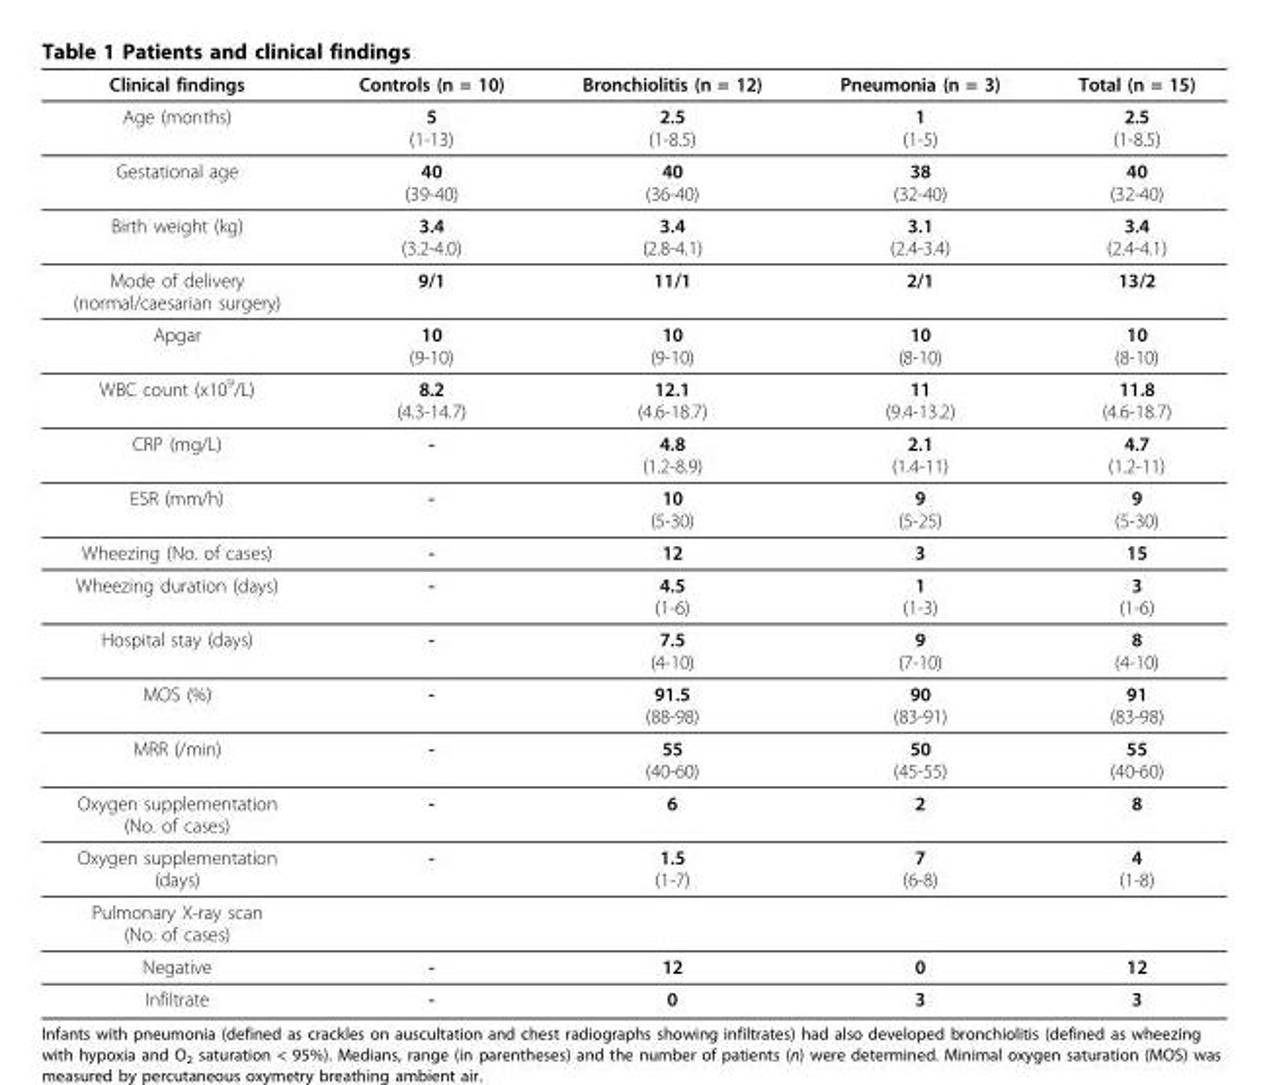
<table><thead><tr><td>Clinical findings</td><td>Controls (n = 10)</td><td>Bronchiolitis (n = 12)</td><td>Pneumonia (n = 3)</td><td>Total (n = 15)</td></tr></thead><tbody><tr><td>Age (months)</td><td>5 (1-13)</td><td>2.5 (1-8.5)</td><td>1 (1-5)</td><td>2.5 (1-8.5)</td></tr><tr><td>Gestational age</td><td>40 (39-40)</td><td>40 (36-40)</td><td>38 (32-40)</td><td>40 (32-40)</td></tr><tr><td>Birth weight (kg)</td><td>3.4 (3.2-4.0)</td><td>3.4 (2.8-4.1)</td><td>3.1 (2.4-3.4)</td><td>3.4 (2.4-4.1)</td></tr><tr><td>Mode of delivery (normal/caesarian surgery)</td><td>9/1</td><td>11/1</td><td>2/1</td><td>13/2</td></tr><tr><td>Apgar</td><td>10 (9-10)</td><td>10 (9-10)</td><td>10 (8-10)</td><td>10 (8-10)</td></tr><tr><td>WBC count (x10<sup>9</sup>/L)</td><td>8.2 (4.3-14.7)</td><td>12.1 (4.6-18.7)</td><td>11 (9.4-13.2)</td><td>11.8 (4.6-18.7)</td></tr><tr><td>CRP (mg/L)</td><td>-</td><td>4.8 (1.2-8.9)</td><td>2.1 (1.4-11)</td><td>4.7 (1.2-11)</td></tr><tr><td>ESR (mm/h)</td><td>-</td><td>10 (5-30)</td><td>9 (5-25)</td><td>9 (5-30)</td></tr><tr><td>Wheezing (No. of cases)</td><td>-</td><td>12</td><td>3</td><td>15</td></tr><tr><td>Wheezing duration (days)</td><td>-</td><td>4.5 (1-6)</td><td>1 (1-3)</td><td>3 (1-6)</td></tr><tr><td>Hospital stay (days)</td><td>-</td><td>7.5 (4-10)</td><td>9 (7-10)</td><td>8 (4-10)</td></tr><tr><td>MOS (%)</td><td>-</td><td>91.5 (88-98)</td><td>90 (83-91)</td><td>91 (83-98)</td></tr><tr><td>MRR (/min)</td><td>-</td><td>55 (40-60)</td><td>50 (45-55)</td><td>55 (40-60)</td></tr><tr><td>Oxygen supplementation (No. of cases)</td><td>-</td><td>6</td><td>2</td><td>8</td></tr><tr><td>Oxygen supplementation (days)</td><td>-</td><td>1.5 (1-7)</td><td>7 (6-8)</td><td>4 (1-8)</td></tr><tr><td colspan="5">Pulmonary X-ray scan (No. of cases)</td></tr><tr><td>Negative</td><td>-</td><td>12</td><td>0</td><td>12</td></tr><tr><td>Infiltrate</td><td>-</td><td>0</td><td>3</td><td>3</td></tr></tbody></table>